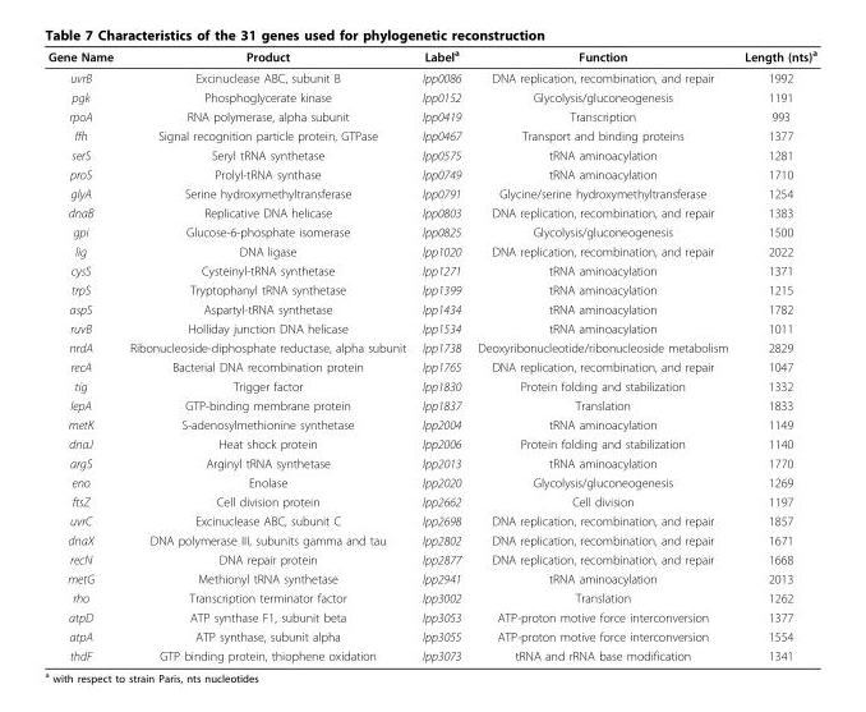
<table><thead><tr><td>Gene Name</td><td>Product</td><td>Label<sup>a</sup></td><td>Function</td><td>Length (nts)<sup>a</sup></td></tr></thead><tbody><tr><td>uvrB</td><td>Excinuclease ABC, subunit B</td><td>lpp0086</td><td>DNA replication, recombination, and repair</td><td>1992</td></tr><tr><td>pgk</td><td>Phosphoglycerate kinase</td><td>lpp0152</td><td>Glycolysis/gluconeogenesis</td><td>1191</td></tr><tr><td>rpoA</td><td>RNA polymerase, alpha subunit</td><td>lpp0419</td><td>Transcription</td><td>993</td></tr><tr><td>ffh</td><td>Signal recognition particle protein, GTPase</td><td>lpp0467</td><td>Transport and binding proteins</td><td>1377</td></tr><tr><td>serS</td><td>Seryl tRNA synthetase</td><td>lpp0575</td><td>tRNA aminoacylation</td><td>1281</td></tr><tr><td>proS</td><td>Prolyl-tRNA synthase</td><td>lpp0749</td><td>tRNA aminoacylation</td><td>1710</td></tr><tr><td>glyA</td><td>Serine hydroxymethyltransferase</td><td>lpp0791</td><td>Glycine/serine hydroxymethyltransferase</td><td>1254</td></tr><tr><td>dnaB</td><td>Replicative DNA helicase</td><td>lpp0803</td><td>DNA replication, recombination, and repair</td><td>1383</td></tr><tr><td>gpi</td><td>Glucose-6-phosphate isomerase</td><td>lpp0825</td><td>Glycolysis/gluconeogenesis</td><td>1500</td></tr><tr><td>lig</td><td>DNA ligase</td><td>lpp1020</td><td>DNA replication, recombination, and repair</td><td>2022</td></tr><tr><td>cysS</td><td>Cysteinyl-tRNA synthetase</td><td>lpp1271</td><td>tRNA aminoacylation</td><td>1371</td></tr><tr><td>trpS</td><td>Tryptophanyl tRNA synthetase</td><td>lpp1399</td><td>tRNA aminoacylation</td><td>1215</td></tr><tr><td>aspS</td><td>Aspartyl-tRNA synthetase</td><td>lpp1434</td><td>tRNA aminoacylation</td><td>1782</td></tr><tr><td>ruvB</td><td>Holliday junction DNA helicase</td><td>lpp1534</td><td>tRNA aminoacylation</td><td>1011</td></tr><tr><td>nrdA</td><td>Ribonucleoside-diphosphate reductase, alpha subunit</td><td>lpp1738</td><td>Deoxyribonucleotide/ribonucleoside metabolism</td><td>2829</td></tr><tr><td>recA</td><td>Bacterial DNA recombination protein</td><td>lpp1765</td><td>DNA replication, recombination, and repair</td><td>1047</td></tr><tr><td>tig</td><td>Trigger factor</td><td>lpp1830</td><td>Protein folding and stabilization</td><td>1332</td></tr><tr><td>lepA</td><td>GTP-binding membrane protein</td><td>lpp1837</td><td>Translation</td><td>1833</td></tr><tr><td>metK</td><td>S-adenosylmethionine synthetase</td><td>lpp2004</td><td>tRNA aminoacylation</td><td>1149</td></tr><tr><td>dnaJ</td><td>Heat shock protein</td><td>lpp2006</td><td>Protein folding and stabilization</td><td>1140</td></tr><tr><td>argS</td><td>Arginyl tRNA synthetase</td><td>lpp2013</td><td>tRNA aminoacylation</td><td>1770</td></tr><tr><td>eno</td><td>Enolase</td><td>lpp2020</td><td>Glycolysis/gluconeogenesis</td><td>1269</td></tr><tr><td>ftsZ</td><td>Cell division protein</td><td>lpp2662</td><td>Cell division</td><td>1197</td></tr><tr><td>uvrC</td><td>Excinuclease ABC, subunit C</td><td>lpp2698</td><td>DNA replication, recombination, and repair</td><td>1857</td></tr><tr><td>dnaX</td><td>DNA polymerase III, subunits gamma and tau</td><td>lpp2802</td><td>DNA replication, recombination, and repair</td><td>1671</td></tr><tr><td>recN</td><td>DNA repair protein</td><td>lpp2877</td><td>DNA replication, recombination, and repair</td><td>1668</td></tr><tr><td>metG</td><td>Methionyl tRNA synthetase</td><td>lpp2941</td><td>tRNA aminoacylation</td><td>2013</td></tr><tr><td>rho</td><td>Transcription terminator factor</td><td>lpp3002</td><td>Translation</td><td>1262</td></tr><tr><td>atpD</td><td>ATP synthase F1, subunit beta</td><td>lpp3053</td><td>ATP-proton motive force interconversion</td><td>1377</td></tr><tr><td>atpA</td><td>ATP synthase, subunit alpha</td><td>lpp3055</td><td>ATP-proton motive force interconversion</td><td>1554</td></tr><tr><td>thdF</td><td>GTP binding protein, thiophene oxidation</td><td>lpp3073</td><td>tRNA and rRNA base modification</td><td>1341</td></tr></tbody></table>